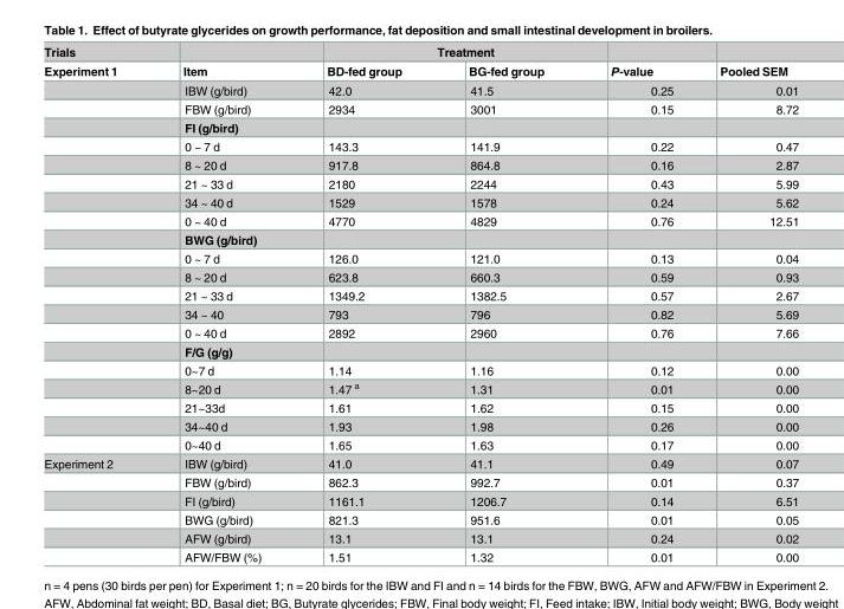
<table><thead><tr><td rowspan="2">Trials Experiment 1</td><td rowspan="2">Item</td><td colspan="2">Treatment</td><td rowspan="2">P-value</td><td rowspan="2">Pooled SEM</td></tr><tr><td>BD-fed group</td><td>BG-fed group</td></tr></thead><tbody><tr><td></td><td>IBW (g/bird)</td><td>42.0</td><td>41.5</td><td>0.25</td><td>0.01</td></tr><tr><td></td><td>FBW (g/bird)</td><td>2934</td><td>3001</td><td>0.15</td><td>8.72</td></tr><tr><td></td><td>FI (g/bird)</td><td></td><td></td><td></td><td></td></tr><tr><td></td><td>0 ~ 7 d</td><td>143.3</td><td>141.9</td><td>0.22</td><td>0.47</td></tr><tr><td></td><td>8 ~ 20 d</td><td>917.8</td><td>864.8</td><td>0.16</td><td>2.87</td></tr><tr><td></td><td>21 ~ 33 d</td><td>2180</td><td>2244</td><td>0.43</td><td>5.99</td></tr><tr><td></td><td>34 ~ 40 d</td><td>1529</td><td>1578</td><td>0.24</td><td>5.62</td></tr><tr><td></td><td>0 ~ 40 d</td><td>4770</td><td>4829</td><td>0.76</td><td>12.51</td></tr><tr><td></td><td>BWG (g/bird)</td><td></td><td></td><td></td><td></td></tr><tr><td></td><td>0 ~ 7 d</td><td>126.0</td><td>121.0</td><td>0.13</td><td>0.04</td></tr><tr><td></td><td>8 ~ 20 d</td><td>623.8</td><td>660.3</td><td>0.59</td><td>0.93</td></tr><tr><td></td><td>21 ~ 33 d</td><td>1349.2</td><td>1382.5</td><td>0.57</td><td>2.67</td></tr><tr><td></td><td>34 ~ 40</td><td>793</td><td>796</td><td>0.82</td><td>5.69</td></tr><tr><td></td><td>0 ~ 40 d</td><td>2892</td><td>2960</td><td>0.76</td><td>7.66</td></tr><tr><td></td><td>F/G (g/g)</td><td></td><td></td><td></td><td></td></tr><tr><td></td><td>0~7 d</td><td>1.14</td><td>1.16</td><td>0.12</td><td>0.00</td></tr><tr><td></td><td>8~20 d</td><td>1.47 <sup>a</sup></td><td>1.31</td><td>0.01</td><td>0.00</td></tr><tr><td></td><td>21~33d</td><td>1.61</td><td>1.62</td><td>0.15</td><td>0.00</td></tr><tr><td></td><td>34~40 d</td><td>1.93</td><td>1.98</td><td>0.26</td><td>0.00</td></tr><tr><td></td><td>0~40 d</td><td>1.65</td><td>1.63</td><td>0.17</td><td>0.00</td></tr><tr><td rowspan="6">Experiment 2</td><td>IBW (g/bird)</td><td>41.0</td><td>41.1</td><td>0.49</td><td>0.07</td></tr><tr><td>FBW (g/bird)</td><td>862.3</td><td>992.7</td><td>0.01</td><td>0.37</td></tr><tr><td>FI (g/bird)</td><td>1161.1</td><td>1206.7</td><td>0.14</td><td>6.51</td></tr><tr><td>BWG (g/bird)</td><td>821.3</td><td>951.6</td><td>0.01</td><td>0.05</td></tr><tr><td>AFW (g/bird)</td><td>13.1</td><td>13.1</td><td>0.24</td><td>0.02</td></tr><tr><td>AFW/FBW (%)</td><td>1.51</td><td>1.32</td><td>0.01</td><td>0.00</td></tr></tbody></table>